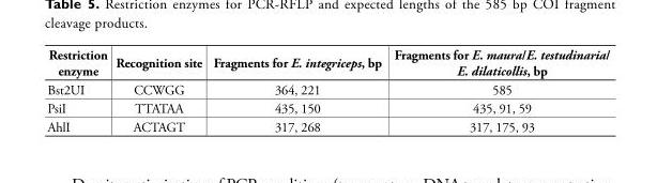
<table><thead><tr><td>Restriction enzyme</td><td>Recognition site</td><td>Fragments for E. integriceps, bp</td><td>Fragments for E. maura/E. testudinaria/ E. dilaticollis, bp</td></tr></thead><tbody><tr><td>Bst2UI</td><td>CCWGG</td><td>364, 221</td><td>585</td></tr><tr><td>PsiI</td><td>TTATAA</td><td>435, 150</td><td>435, 91, 59</td></tr><tr><td>AhlI</td><td>ACTAGT</td><td>317, 268</td><td>317, 175, 93</td></tr></tbody></table>